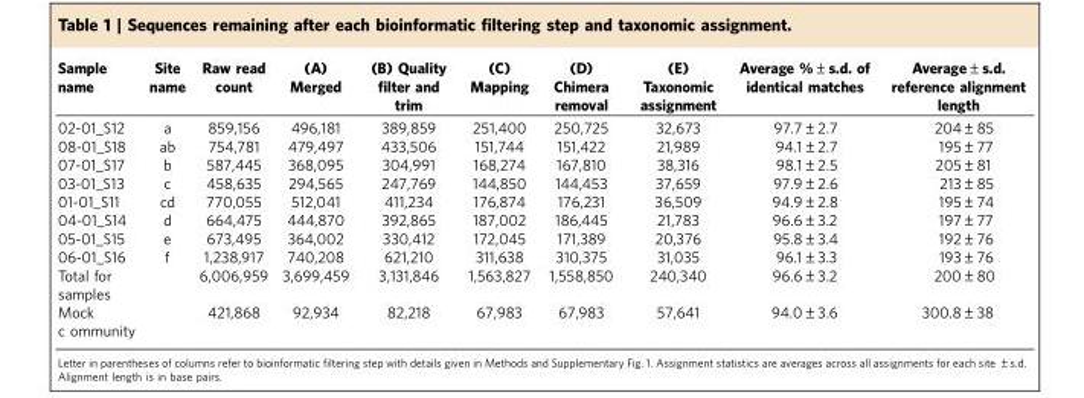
<table><thead><tr><td>Sample name</td><td>Site name</td><td>Raw read count</td><td>(A) Merged</td><td>(B) Quality filter and trim</td><td>(C) Mapping</td><td>(D) Chimera removal</td><td>(E) Taxonomic assignment</td><td>Average %±s.d. of identical matches</td><td>Average±s.d. reference alignment length</td></tr></thead><tbody><tr><td>02-01_S12</td><td>a</td><td>859,156</td><td>496,181</td><td>389,859</td><td>251,400</td><td>250,725</td><td>32,673</td><td>97.7±2.7</td><td>204±85</td></tr><tr><td>08-01_S18</td><td>ab</td><td>754,781</td><td>479,497</td><td>433,506</td><td>151,744</td><td>151,422</td><td>21,989</td><td>94.1±2.7</td><td>195±77</td></tr><tr><td>07-01_S17</td><td>b</td><td>587,445</td><td>368,095</td><td>304,991</td><td>168,274</td><td>167,810</td><td>38,316</td><td>98.1±2.5</td><td>205±81</td></tr><tr><td>03-01_S13</td><td>c</td><td>458,635</td><td>294,565</td><td>247,769</td><td>144,850</td><td>144,453</td><td>37,659</td><td>97.9±2.6</td><td>213±85</td></tr><tr><td>01-01_S11</td><td>cd</td><td>770,055</td><td>512,041</td><td>411,234</td><td>176,874</td><td>176,231</td><td>36,509</td><td>94.9±2.8</td><td>195±74</td></tr><tr><td>04-01_S14</td><td>d</td><td>664,475</td><td>444,870</td><td>392,865</td><td>187,002</td><td>186,445</td><td>21,783</td><td>96.6±3.2</td><td>197±77</td></tr><tr><td>05-01_S15</td><td>e</td><td>673,495</td><td>364,002</td><td>330,412</td><td>172,045</td><td>171,389</td><td>20,376</td><td>95.8±3.4</td><td>192±76</td></tr><tr><td>06-01_S16</td><td>f</td><td>1,238,917</td><td>740,208</td><td>621,210</td><td>311,638</td><td>310,375</td><td>31,035</td><td>96.1±3.3</td><td>193±76</td></tr><tr><td>Total for samples</td><td></td><td>6,006,959</td><td>3,699,459</td><td>3,131,846</td><td>1,563,827</td><td>1,558,850</td><td>240,340</td><td>96.6±3.2</td><td>200±80</td></tr><tr><td>Mock c ommunity</td><td></td><td>421,868</td><td>92,934</td><td>82,218</td><td>67,983</td><td>67,983</td><td>57,641</td><td>94.0±3.6</td><td>300.8±38</td></tr></tbody></table>